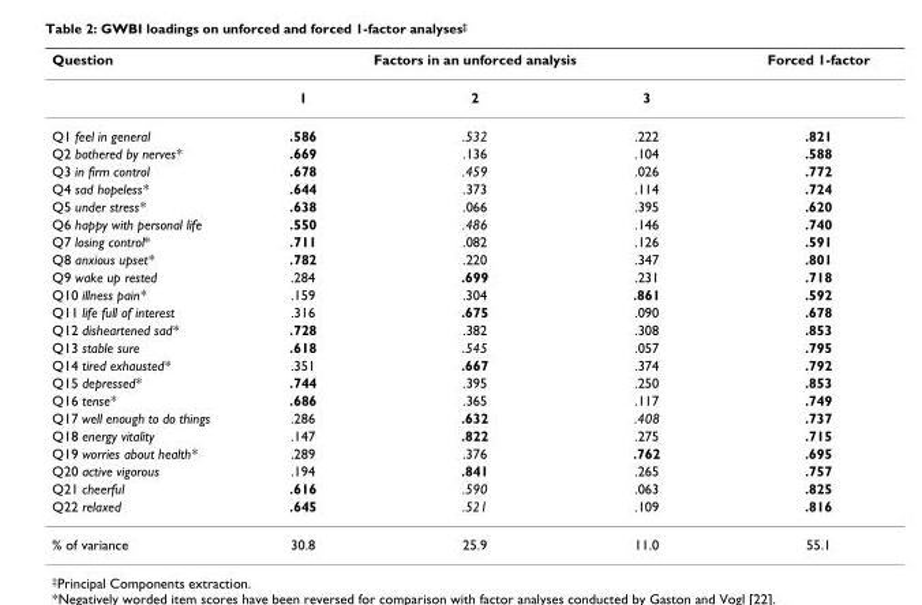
<table><thead><tr><td rowspan="2">Question</td><td colspan="3">Factors in an unforced analysis</td><td rowspan="2">Forced 1-factor</td></tr><tr><td>1</td><td>2</td><td>3</td></tr></thead><tbody><tr><td>Q1 feel in general</td><td>.586</td><td>.532</td><td>.222</td><td>.821</td></tr><tr><td>Q2 bothered by nerves*</td><td>.669</td><td>.136</td><td>.104</td><td>.588</td></tr><tr><td>Q3 in firm control</td><td>.678</td><td>.459</td><td>.026</td><td>.772</td></tr><tr><td>Q4 sad hopeless*</td><td>.644</td><td>.373</td><td>.114</td><td>.724</td></tr><tr><td>Q5 under stress*</td><td>.638</td><td>.066</td><td>.395</td><td>.620</td></tr><tr><td>Q6 happy with personal life</td><td>.550</td><td>.486</td><td>.146</td><td>.740</td></tr><tr><td>Q7 losing control*</td><td>.711</td><td>.082</td><td>.126</td><td>.591</td></tr><tr><td>Q8 anxious upset*</td><td>.782</td><td>.220</td><td>.347</td><td>.801</td></tr><tr><td>Q9 wake up rested</td><td>.284</td><td>.699</td><td>.231</td><td>.718</td></tr><tr><td>Q10 illness pain*</td><td>.159</td><td>.304</td><td>.861</td><td>.592</td></tr><tr><td>Q11 life full of interest</td><td>.316</td><td>.675</td><td>.090</td><td>.678</td></tr><tr><td>Q12 disheartened sad*</td><td>.728</td><td>.382</td><td>.308</td><td>.853</td></tr><tr><td>Q13 stable sure</td><td>.618</td><td>.545</td><td>.057</td><td>.795</td></tr><tr><td>Q14 tired exhausted*</td><td>.351</td><td>.667</td><td>.374</td><td>.792</td></tr><tr><td>Q15 depressed*</td><td>.744</td><td>.395</td><td>.250</td><td>.853</td></tr><tr><td>Q16 tense*</td><td>.686</td><td>.365</td><td>.117</td><td>.749</td></tr><tr><td>Q17 well enough to do things</td><td>.286</td><td>.632</td><td>.408</td><td>.737</td></tr><tr><td>Q18 energy vitality</td><td>.147</td><td>.822</td><td>.275</td><td>.715</td></tr><tr><td>Q19 worries about health*</td><td>.289</td><td>.376</td><td>.762</td><td>.695</td></tr><tr><td>Q20 active vigorous</td><td>.194</td><td>.841</td><td>.265</td><td>.757</td></tr><tr><td>Q21 cheerful</td><td>.616</td><td>.590</td><td>.063</td><td>.825</td></tr><tr><td>Q22 relaxed</td><td>.645</td><td>.521</td><td>.109</td><td>.816</td></tr><tr><td>% of variance</td><td>30.8</td><td>25.9</td><td>11.0</td><td>55.1</td></tr></tbody></table>